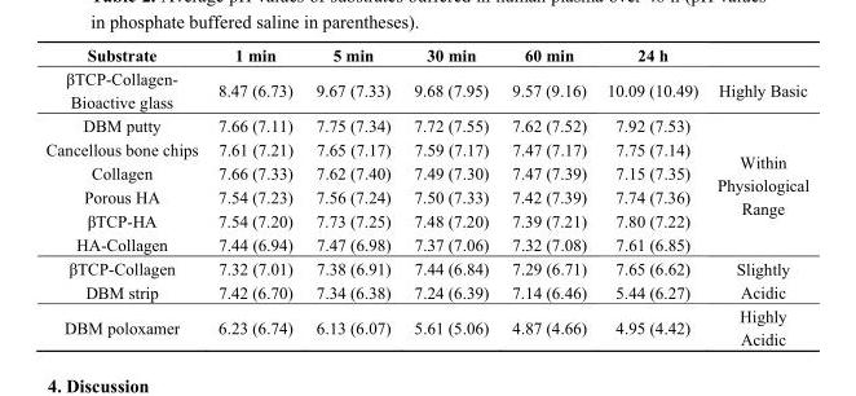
<table><thead><tr><td>Substrate</td><td>1 min</td><td>5 min</td><td>30 min</td><td>60 min</td><td>24 h</td><td></td></tr></thead><tbody><tr><td>βTCP-Collagen- Bioactive glass</td><td>8.47 (6.73)</td><td>9.67 (7.33)</td><td>9.68 (7.95)</td><td>9.57 (9.16)</td><td>10.09 (10.49)</td><td>Highly Basic</td></tr><tr><td>DBM putty</td><td>7.66 (7.11)</td><td>7.75 (7.34)</td><td>7.72 (7.55)</td><td>7.62 (7.52)</td><td>7.92 (7.53)</td><td rowspan="6">Within Physiological Range</td></tr><tr><td>Cancellous bone chips</td><td>7.61 (7.21)</td><td>7.65 (7.17)</td><td>7.59 (7.17)</td><td>7.47 (7.17)</td><td>7.75 (7.14)</td></tr><tr><td>Collagen</td><td>7.66 (7.33)</td><td>7.62 (7.40)</td><td>7.49 (7.30)</td><td>7.47 (7.39)</td><td>7.15 (7.35)</td></tr><tr><td>Porous HA</td><td>7.54 (7.23)</td><td>7.56 (7.24)</td><td>7.50 (7.33)</td><td>7.42 (7.39)</td><td>7.74 (7.36)</td></tr><tr><td>βTCP-HA</td><td>7.54 (7.20)</td><td>7.73 (7.25)</td><td>7.48 (7.20)</td><td>7.39 (7.21)</td><td>7.80 (7.22)</td></tr><tr><td>HA-Collagen</td><td>7.44 (6.94)</td><td>7.47 (6.98)</td><td>7.37 (7.06)</td><td>7.32 (7.08)</td><td>7.61 (6.85)</td></tr><tr><td>βTCP-Collagen</td><td>7.32 (7.01)</td><td>7.38 (6.91)</td><td>7.44 (6.84)</td><td>7.29 (6.71)</td><td>7.65 (6.62)</td><td rowspan="2">Slightly Acidic</td></tr><tr><td>DBM strip</td><td>7.42 (6.70)</td><td>7.34 (6.38)</td><td>7.24 (6.39)</td><td>7.14 (6.46)</td><td>5.44 (6.27)</td></tr><tr><td>DBM poloxamer</td><td>6.23 (6.74)</td><td>6.13 (6.07)</td><td>5.61 (5.06)</td><td>4.87 (4.66)</td><td>4.95 (4.42)</td><td>Highly Acidic</td></tr></tbody></table>